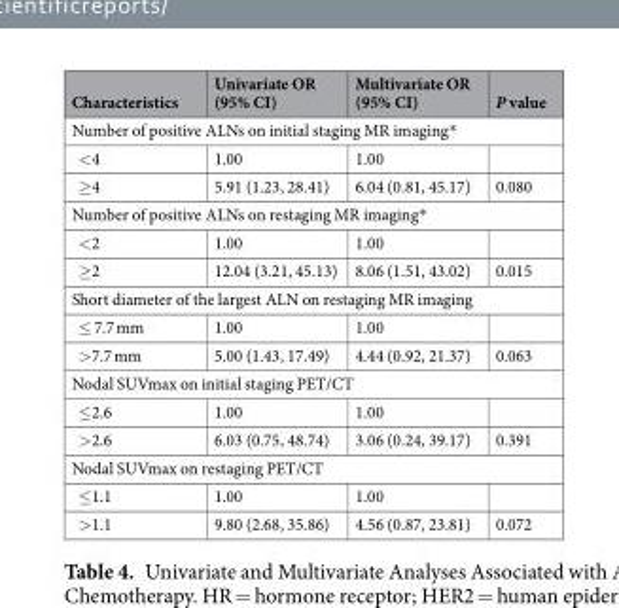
<table><thead><tr><td>Characteristics</td><td>Univariate OR (95% CI)</td><td>Multivariate OR (95% CI)</td><td>P value</td></tr></thead><tbody><tr><td colspan="4">Number of positive ALNs on initial staging MR imaging*</td></tr><tr><td>&lt;4</td><td>1.00</td><td>1.00</td><td></td></tr><tr><td>≥4</td><td>5.91 (1.23, 28.41)</td><td>6.04 (0.81, 45.17)</td><td>0.080</td></tr><tr><td colspan="4">Number of positive ALNs on restaging MR imaging*</td></tr><tr><td>&lt;2</td><td>1.00</td><td>1.00</td><td></td></tr><tr><td>≥2</td><td>12.04 (3.21, 45.13)</td><td>8.06 (1.51, 43.02)</td><td>0.015</td></tr><tr><td colspan="4">Short diameter of the largest ALN on restaging MR imaging</td></tr><tr><td>≤ 7.7 mm</td><td>1.00</td><td>1.00</td><td></td></tr><tr><td>&gt;7.7 mm</td><td>5.00 (1.43, 17.49)</td><td>4.44 (0.92, 21.37)</td><td>0.063</td></tr><tr><td colspan="4">Nodal SUVmax on initial staging PET/CT</td></tr><tr><td>≤2.6</td><td>1.00</td><td>1.00</td><td></td></tr><tr><td>&gt;2.6</td><td>6.03 (0.75, 48.74)</td><td>3.06 (0.24, 39.17)</td><td>0.391</td></tr><tr><td colspan="4">Nodal SUVmax on restaging PET/CT</td></tr><tr><td>≤1.1</td><td>1.00</td><td>1.00</td><td></td></tr><tr><td>&gt;1.1</td><td>9.80 (2.68, 35.86)</td><td>4.56 (0.87, 23.81)</td><td>0.072</td></tr></tbody></table>